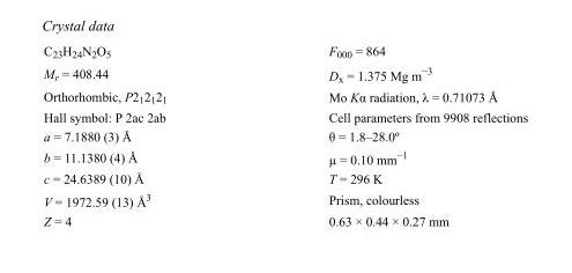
<table><tbody><tr><td>C<sub>23</sub>H<sub>24</sub>N<sub>2</sub>O<sub>5</sub></td><td>F000 = 864</td></tr><tr><td>M<sub>r</sub> = 408.44</td><td>D<sub>x</sub> = 1.375 Mg m<sup>−3</sup></td></tr><tr><td>Orthorhombic, P2<sub>1</sub>2<sub>1</sub>2<sub>1</sub></td><td>Mo Kα radiation, λ = 0.71073 Å</td></tr><tr><td>Hall symbol: P 2ac 2ab</td><td>Cell parameters from 9908 reflections</td></tr><tr><td>a = 7.1880 (3) Å</td><td>θ = 1.8–28.0º</td></tr><tr><td>b = 11.1380 (4) Å</td><td>µ = 0.10 mm<sup>−1</sup></td></tr><tr><td>c = 24.6389 (10) Å</td><td>T = 296 K</td></tr><tr><td>V = 1972.59 (13) Å<sup>3</sup></td><td>Prism, colourless</td></tr><tr><td>Z = 4</td><td>0.63 × 0.44 × 0.27 mm</td></tr></tbody></table>